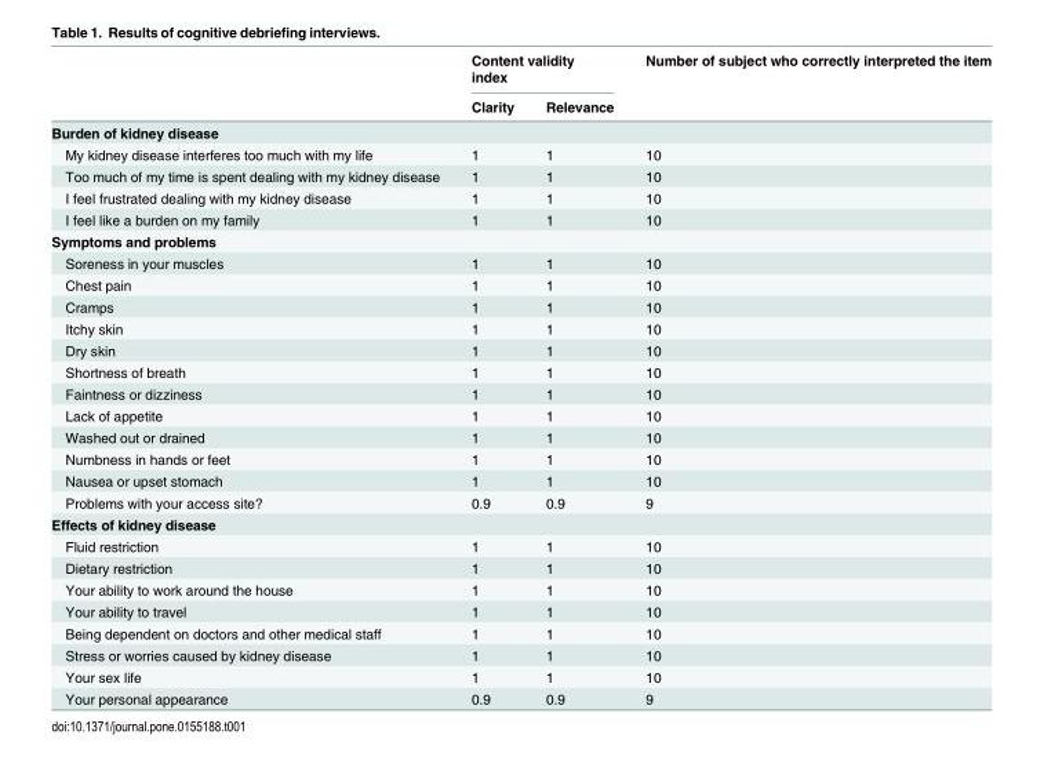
<table><thead><tr><td rowspan="2"></td><td colspan="2">Content validity index</td><td rowspan="2">Number of subject who correctly interpreted the item</td></tr><tr><td>Clarity</td><td>Relevance</td></tr></thead><tbody><tr><td colspan="4">Burden of kidney disease</td></tr><tr><td>My kidney disease interferes too much with my life</td><td>1</td><td>1</td><td>10</td></tr><tr><td>Too much of my time is spent dealing with my kidney disease</td><td>1</td><td>1</td><td>10</td></tr><tr><td>I feel frustrated dealing with my kidney disease</td><td>1</td><td>1</td><td>10</td></tr><tr><td>I feel like a burden on my family</td><td>1</td><td>1</td><td>10</td></tr><tr><td colspan="4">Symptoms and problems</td></tr><tr><td>Soreness in your muscles</td><td>1</td><td>1</td><td>10</td></tr><tr><td>Chest pain</td><td>1</td><td>1</td><td>10</td></tr><tr><td>Cramps</td><td>1</td><td>1</td><td>10</td></tr><tr><td>Itchy skin</td><td>1</td><td>1</td><td>10</td></tr><tr><td>Dry skin</td><td>1</td><td>1</td><td>10</td></tr><tr><td>Shortness of breath</td><td>1</td><td>1</td><td>10</td></tr><tr><td>Faintness or dizziness</td><td>1</td><td>1</td><td>10</td></tr><tr><td>Lack of appetite</td><td>1</td><td>1</td><td>10</td></tr><tr><td>Washed out or drained</td><td>1</td><td>1</td><td>10</td></tr><tr><td>Numbness in hands or feet</td><td>1</td><td>1</td><td>10</td></tr><tr><td>Nausea or upset stomach</td><td>1</td><td>1</td><td>10</td></tr><tr><td>Problems with your access site?</td><td>0.9</td><td>0.9</td><td>9</td></tr><tr><td colspan="4">Effects of kidney disease</td></tr><tr><td>Fluid restriction</td><td>1</td><td>1</td><td>10</td></tr><tr><td>Dietary restriction</td><td>1</td><td>1</td><td>10</td></tr><tr><td>Your ability to work around the house</td><td>1</td><td>1</td><td>10</td></tr><tr><td>Your ability to travel</td><td>1</td><td>1</td><td>10</td></tr><tr><td>Being dependent on doctors and other medical staff</td><td>1</td><td>1</td><td>10</td></tr><tr><td>Stress or worries caused by kidney disease</td><td>1</td><td>1</td><td>10</td></tr><tr><td>Your sex life</td><td>1</td><td>1</td><td>10</td></tr><tr><td>Your personal appearance</td><td>0.9</td><td>0.9</td><td>9</td></tr></tbody></table>